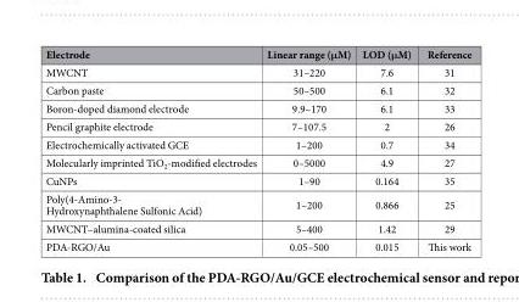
<table><thead><tr><td>Electrode</td><td>Linear range (μM)</td><td>LOD (μM)</td><td>Reference</td></tr></thead><tbody><tr><td>MWCNT</td><td>31–220</td><td>7.6</td><td>31</td></tr><tr><td>Carbon paste</td><td>50–500</td><td>6.1</td><td>32</td></tr><tr><td>Boron-doped diamond electrode</td><td>9.9–170</td><td>6.1</td><td>33</td></tr><tr><td>Pencil graphite electrode</td><td>7–107.5</td><td>2</td><td>26</td></tr><tr><td>Electrochemically activated GCE</td><td>1–200</td><td>0.7</td><td>34</td></tr><tr><td>Molecularly imprinted TiO<sub>2</sub>-modified electrodes</td><td>0–5000</td><td>4.9</td><td>27</td></tr><tr><td>CuNPs</td><td>1–90</td><td>0.164</td><td>35</td></tr><tr><td>Poly(4-Amino-3- Hydroxynaphthalene Sulfonic Acid)</td><td>1–200</td><td>0.866</td><td>25</td></tr><tr><td>MWCNT–alumina-coated silica</td><td>5–400</td><td>1.42</td><td>29</td></tr><tr><td>PDA-RGO/Au</td><td>0.05–500</td><td>0.015</td><td>This work</td></tr></tbody></table>